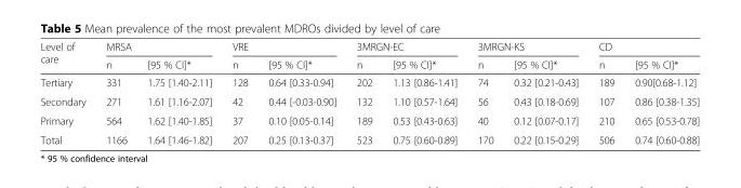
<table><thead><tr><td rowspan="2">Level of care</td><td colspan="2">MRSA</td><td colspan="2">VRE</td><td colspan="2">3MRGN-EC</td><td colspan="2">3MRGN-KS</td><td colspan="2">CD</td></tr><tr><td>n</td><td>[95 % CI]*</td><td>n</td><td>[95 % CI]*</td><td>n</td><td>[95 % CI]*</td><td>n</td><td>[95 % CI]*</td><td>n</td><td>[95 % CI]*</td></tr></thead><tbody><tr><td>Tertiary</td><td>331</td><td>1.75 [1.40-2.11]</td><td>128</td><td>0.64 [0.33-0.94]</td><td>202</td><td>1.13 [0.86-1.41]</td><td>74</td><td>0.32 [0.21-0.43]</td><td>189</td><td>0.90[0.68-1.12]</td></tr><tr><td>Secondary</td><td>271</td><td>1.61 [1.16-2.07]</td><td>42</td><td>0.44 [-0.03-0.90]</td><td>132</td><td>1.10 [0.57-1.64]</td><td>56</td><td>0.43 [0.18-0.69]</td><td>107</td><td>0.86 [0.38-1.35]</td></tr><tr><td>Primary</td><td>564</td><td>1.62 [1.40-1.85]</td><td>37</td><td>0.10 [0.05-0.14]</td><td>189</td><td>0.53 [0.43-0.63]</td><td>40</td><td>0.12 [0.07-0.17]</td><td>210</td><td>0.65 [0.53-0.78]</td></tr><tr><td>Total</td><td>1166</td><td>1.64 [1.46-1.82]</td><td>207</td><td>0.25 [0.13-0.37]</td><td>523</td><td>0.75 [0.60-0.89]</td><td>170</td><td>0.22 [0.15-0.29]</td><td>506</td><td>0.74 [0.60-0.88]</td></tr></tbody></table>